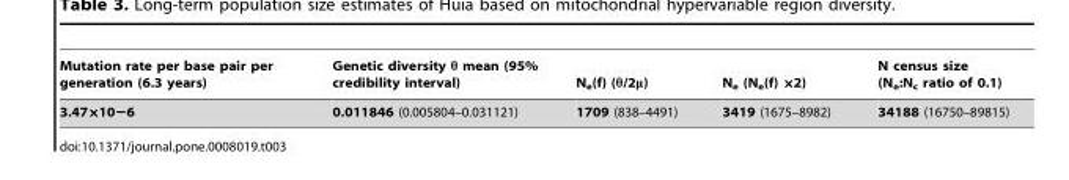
<table><thead><tr><td>Mutation rate per base pair per generation (6.3 years)</td><td>Genetic diversity θ mean (95% credibility interval)</td><td>N<sub>e</sub>(f) (θ/2μ)</td><td>N<sub>e</sub> (N<sub>e</sub>(f) ×2)</td><td>N census size (Ne:Nc ratio of 0.1)</td></tr></thead><tbody><tr><td>3.47×10−6</td><td>0.011846 (0.005804–0.031121)</td><td>1709 (838–4491)</td><td>3419 (1675–8982)</td><td>34188 (16750–89815)</td></tr></tbody></table>